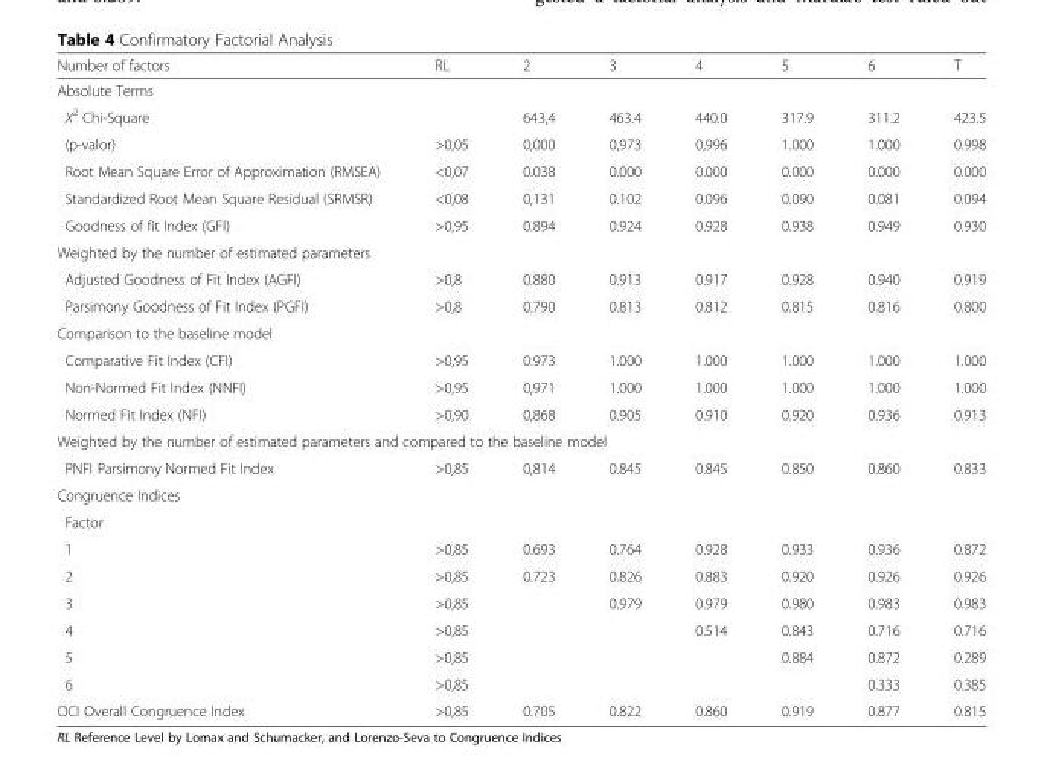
<table><thead><tr><td>Number of factors</td><td>RL</td><td>2</td><td>3</td><td>4</td><td>5</td><td>6</td><td>T</td></tr></thead><tbody><tr><td colspan="8">Absolute Terms</td></tr><tr><td>X<sup>2</sup> Chi-Square</td><td></td><td>643,4</td><td>463.4</td><td>440.0</td><td>317.9</td><td>311.2</td><td>423.5</td></tr><tr><td>(p-valor)</td><td>&gt;0,05</td><td>0,000</td><td>0,973</td><td>0,996</td><td>1.000</td><td>1.000</td><td>0.998</td></tr><tr><td>Root Mean Square Error of Approximation (RMSEA)</td><td>&lt;0,07</td><td>0.038</td><td>0.000</td><td>0.000</td><td>0.000</td><td>0.000</td><td>0.000</td></tr><tr><td>Standardized Root Mean Square Residual (SRMSR)</td><td>&lt;0,08</td><td>0,131</td><td>0.102</td><td>0.096</td><td>0.090</td><td>0.081</td><td>0.094</td></tr><tr><td>Goodness of fit Index (GFI)</td><td>&gt;0,95</td><td>0.894</td><td>0.924</td><td>0.928</td><td>0.938</td><td>0.949</td><td>0.930</td></tr><tr><td colspan="8">Weighted by the number of estimated parameters</td></tr><tr><td>Adjusted Goodness of Fit Index (AGFI)</td><td>&gt;0,8</td><td>0.880</td><td>0.913</td><td>0.917</td><td>0.928</td><td>0.940</td><td>0.919</td></tr><tr><td>Parsimony Goodness of Fit Index (PGFI)</td><td>&gt;0,8</td><td>0.790</td><td>0.813</td><td>0.812</td><td>0.815</td><td>0.816</td><td>0.800</td></tr><tr><td colspan="8">Comparison to the baseline model</td></tr><tr><td>Comparative Fit Index (CFI)</td><td>&gt;0,95</td><td>0.973</td><td>1.000</td><td>1.000</td><td>1.000</td><td>1.000</td><td>1.000</td></tr><tr><td>Non-Normed Fit Index (NNFI)</td><td>&gt;0,95</td><td>0,971</td><td>1.000</td><td>1.000</td><td>1.000</td><td>1.000</td><td>1.000</td></tr><tr><td>Normed Fit Index (NFI)</td><td>&gt;0,90</td><td>0,868</td><td>0.905</td><td>0.910</td><td>0.920</td><td>0.936</td><td>0.913</td></tr><tr><td colspan="8">Weighted by the number of estimated parameters and compared to the baseline model</td></tr><tr><td>PNFI Parsimony Normed Fit Index</td><td>&gt;0,85</td><td>0,814</td><td>0.845</td><td>0.845</td><td>0.850</td><td>0.860</td><td>0.833</td></tr><tr><td colspan="8">Congruence Indices</td></tr><tr><td colspan="8">Factor</td></tr><tr><td>1</td><td>&gt;0,85</td><td>0.693</td><td>0.764</td><td>0.928</td><td>0.933</td><td>0.936</td><td>0.872</td></tr><tr><td>2</td><td>&gt;0,85</td><td>0.723</td><td>0.826</td><td>0.883</td><td>0.920</td><td>0.926</td><td>0.926</td></tr><tr><td>3</td><td>&gt;0,85</td><td></td><td>0.979</td><td>0.979</td><td>0.980</td><td>0.983</td><td>0.983</td></tr><tr><td>4</td><td>&gt;0,85</td><td></td><td></td><td>0.514</td><td>0.843</td><td>0.716</td><td>0.716</td></tr><tr><td>5</td><td>&gt;0,85</td><td></td><td></td><td></td><td>0.884</td><td>0.872</td><td>0.289</td></tr><tr><td>6</td><td>&gt;0,85</td><td></td><td></td><td></td><td></td><td>0.333</td><td>0.385</td></tr><tr><td>OCI Overall Congruence Index</td><td>&gt;0,85</td><td>0.705</td><td>0.822</td><td>0.860</td><td>0.919</td><td>0.877</td><td>0.815</td></tr></tbody></table>